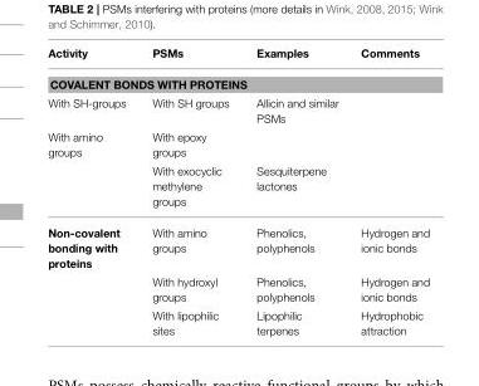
<table><thead><tr><td>Activity</td><td>PSMs</td><td>Examples</td><td>Comments</td></tr></thead><tbody><tr><td colspan="4">COVALENT BONDS WITH PROTEINS</td></tr><tr><td>With SH-groups</td><td>With SH groups</td><td>Allicin and similar PSMs</td><td></td></tr><tr><td rowspan="2">With amino groups</td><td>With epoxy groups</td><td></td><td></td></tr><tr><td>With exocyclic methylene groups</td><td>Sesquiterpene lactones</td><td></td></tr><tr><td rowspan="3">Non-covalent bonding with proteins</td><td>With amino groups</td><td>Phenolics, polyphenols</td><td>Hydrogen and ionic bonds</td></tr><tr><td>With hydroxyl groups</td><td>Phenolics, polyphenols</td><td>Hydrogen and ionic bonds</td></tr><tr><td>With lipophilic sites</td><td>Lipophilic terpenes</td><td>Hydrophobic attraction</td></tr></tbody></table>